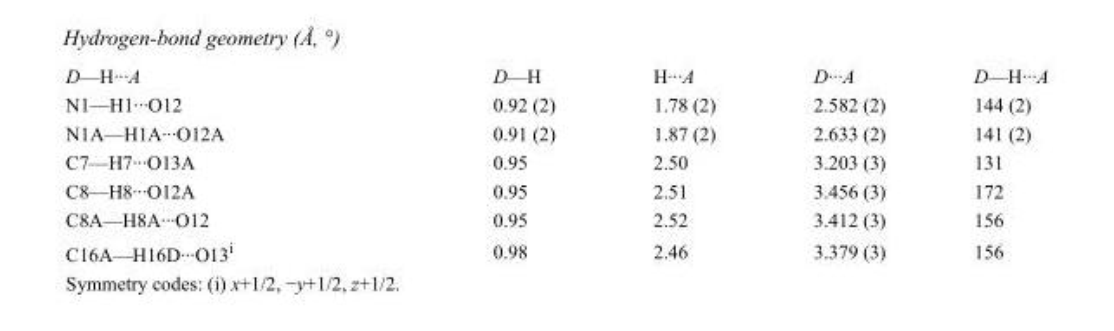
<table><tbody><tr><td>D—H···A</td><td>D—H</td><td>H···A</td><td>D···A</td><td>D—H···A</td></tr><tr><td>N1—H1···O12</td><td>0.92 (2)</td><td>1.78 (2)</td><td>2.582 (2)</td><td>144 (2)</td></tr><tr><td>N1A—H1A···O12A</td><td>0.91 (2)</td><td>1.87 (2)</td><td>2.633 (2)</td><td>141 (2)</td></tr><tr><td>C7—H7···O13A</td><td>0.95</td><td>2.50</td><td>3.203 (3)</td><td>131</td></tr><tr><td>C8—H8···O12A</td><td>0.95</td><td>2.51</td><td>3.456 (3)</td><td>172</td></tr><tr><td>C8A—H8A···O12</td><td>0.95</td><td>2.52</td><td>3.412 (3)</td><td>156</td></tr><tr><td>C16A—H16D···O13<sup>i</sup></td><td>0.98</td><td>2.46</td><td>3.379 (3)</td><td>156</td></tr></tbody></table>